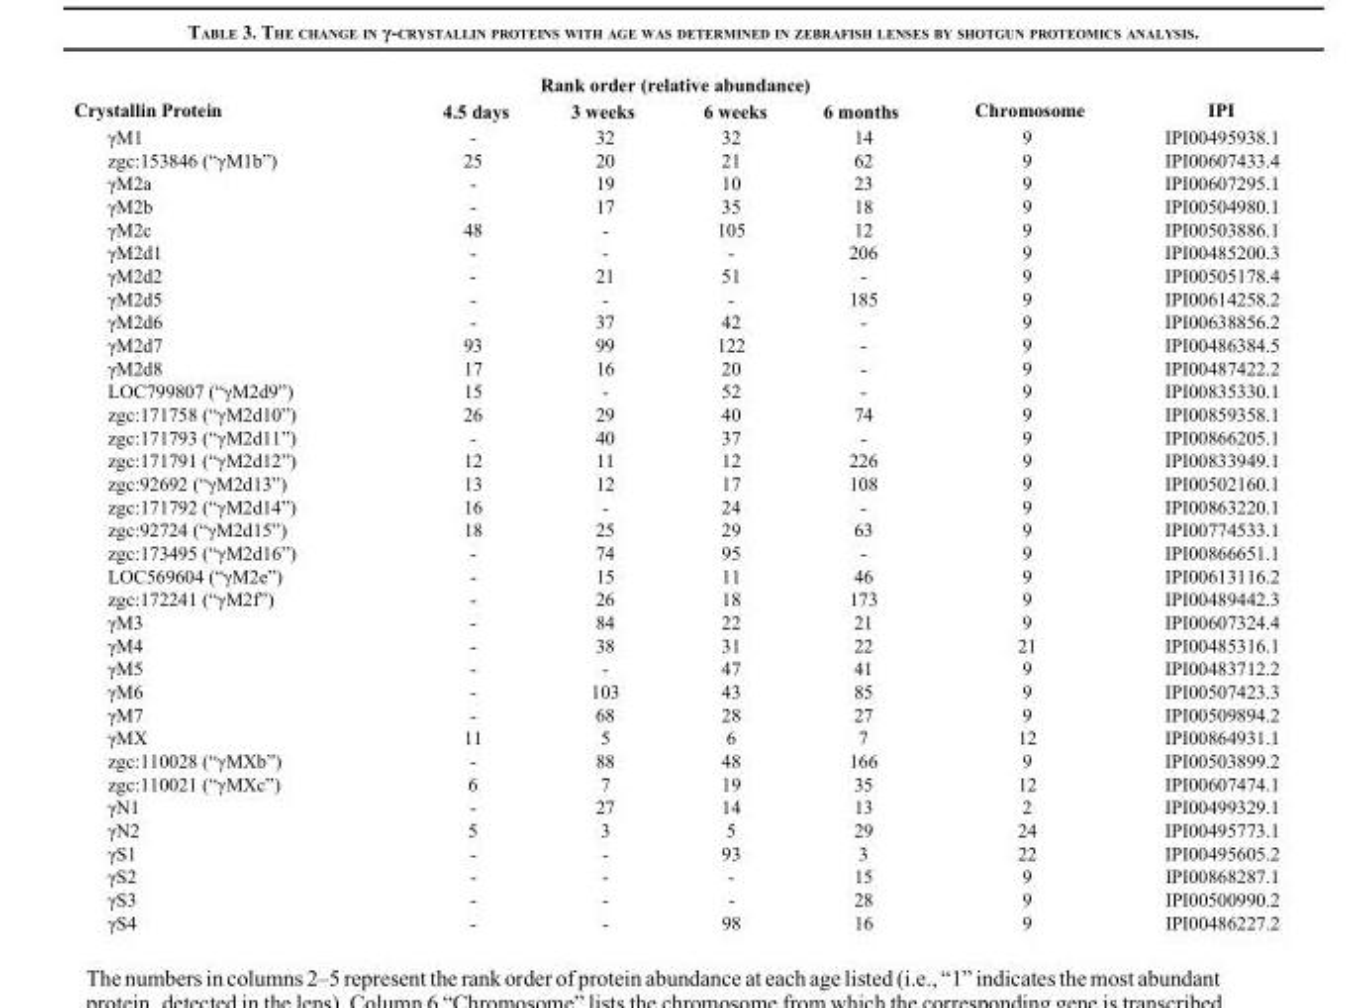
<table><tbody><tr><td rowspan="2">Crystallin Protein</td><td colspan="4">Rank order (relative abundance)</td><td rowspan="2">Chromosome</td><td rowspan="2">IPI</td></tr><tr><td>4.5 days</td><td>3 weeks</td><td>6 weeks</td><td>6 months</td></tr><tr><td>γM1</td><td>-</td><td>32</td><td>32</td><td>14</td><td>9</td><td>IPI00495938.1</td></tr><tr><td>zgc:153846 (“γM1b”)</td><td>25</td><td>20</td><td>21</td><td>62</td><td>9</td><td>IPI00607433.4</td></tr><tr><td>γM2a</td><td>-</td><td>19</td><td>10</td><td>23</td><td>9</td><td>IPI00607295.1</td></tr><tr><td>γM2b</td><td>-</td><td>17</td><td>35</td><td>18</td><td>9</td><td>IPI00504980.1</td></tr><tr><td>γM2c</td><td>48</td><td>-</td><td>105</td><td>12</td><td>9</td><td>IPI00503886.1</td></tr><tr><td>γM2d1</td><td>-</td><td>-</td><td>-</td><td>206</td><td>9</td><td>IPI00485200.3</td></tr><tr><td>γM2d2</td><td>-</td><td>21</td><td>51</td><td>-</td><td>9</td><td>IPI00505178.4</td></tr><tr><td>γM2d5</td><td>-</td><td>-</td><td>-</td><td>185</td><td>9</td><td>IPI00614258.2</td></tr><tr><td>γM2d6</td><td>-</td><td>37</td><td>42</td><td>-</td><td>9</td><td>IPI00638856.2</td></tr><tr><td>γM2d7</td><td>93</td><td>99</td><td>122</td><td>-</td><td>9</td><td>IPI00486384.5</td></tr><tr><td>γM2d8</td><td>17</td><td>16</td><td>20</td><td>-</td><td>9</td><td>IPI00487422.2</td></tr><tr><td>LOC799807 (“γM2d9”)</td><td>15</td><td>-</td><td>52</td><td>-</td><td>9</td><td>IPI00835330.1</td></tr><tr><td>zgc:171758 (“γM2d10”)</td><td>26</td><td>29</td><td>40</td><td>74</td><td>9</td><td>IPI00859358.1</td></tr><tr><td>zgc:171793 (“γM2d11”)</td><td>-</td><td>40</td><td>37</td><td>-</td><td>9</td><td>IPI00866205.1</td></tr><tr><td>zgc:171791 (“γM2d12”)</td><td>12</td><td>11</td><td>12</td><td>226</td><td>9</td><td>IPI00833949.1</td></tr><tr><td>zgc:92692 (“γM2d13”)</td><td>13</td><td>12</td><td>17</td><td>108</td><td>9</td><td>IPI00502160.1</td></tr><tr><td>zgc:171792 (“γM2d14”)</td><td>16</td><td>-</td><td>24</td><td>-</td><td>9</td><td>IPI00863220.1</td></tr><tr><td>zgc:92724 (“γM2d15”)</td><td>18</td><td>25</td><td>29</td><td>63</td><td>9</td><td>IPI00774533.1</td></tr><tr><td>zgc:173495 (“γM2d16”)</td><td>-</td><td>74</td><td>95</td><td>-</td><td>9</td><td>IPI00866651.1</td></tr><tr><td>LOC569604 (“γM2e”)</td><td>-</td><td>15</td><td>11</td><td>46</td><td>9</td><td>IPI00613116.2</td></tr><tr><td>zgc:172241 (“γM2f”)</td><td>-</td><td>26</td><td>18</td><td>173</td><td>9</td><td>IPI00489442.3</td></tr><tr><td>γM3</td><td>-</td><td>84</td><td>22</td><td>21</td><td>9</td><td>IPI00607324.4</td></tr><tr><td>γM4</td><td>-</td><td>38</td><td>31</td><td>22</td><td>21</td><td>IPI00485316.1</td></tr><tr><td>γM5</td><td>-</td><td>-</td><td>47</td><td>41</td><td>9</td><td>IPI00483712.2</td></tr><tr><td>γM6</td><td>-</td><td>103</td><td>43</td><td>85</td><td>9</td><td>IPI00507423.3</td></tr><tr><td>γM7</td><td>-</td><td>68</td><td>28</td><td>27</td><td>9</td><td>IPI00509894.2</td></tr><tr><td>γMX</td><td>11</td><td>5</td><td>6</td><td>7</td><td>12</td><td>IPI00864931.1</td></tr><tr><td>zgc:110028 (“γMXb”)</td><td>-</td><td>88</td><td>48</td><td>166</td><td>9</td><td>IPI00503899.2</td></tr><tr><td>zgc:110021 (“γMXc”)</td><td>6</td><td>7</td><td>19</td><td>35</td><td>12</td><td>IPI00607474.1</td></tr><tr><td>γN1</td><td>-</td><td>27</td><td>14</td><td>13</td><td>2</td><td>IPI00499329.1</td></tr><tr><td>γN2</td><td>5</td><td>3</td><td>5</td><td>29</td><td>24</td><td>IPI00495773.1</td></tr><tr><td>γS1</td><td>-</td><td>-</td><td>93</td><td>3</td><td>22</td><td>IPI00495605.2</td></tr><tr><td>γS2</td><td>-</td><td>-</td><td>-</td><td>15</td><td>9</td><td>IPI00868287.1</td></tr><tr><td>γS3</td><td>-</td><td>-</td><td>-</td><td>28</td><td>9</td><td>IPI00500990.2</td></tr><tr><td>γS4</td><td>-</td><td>-</td><td>98</td><td>16</td><td>9</td><td>IPI00486227.2</td></tr></tbody></table>